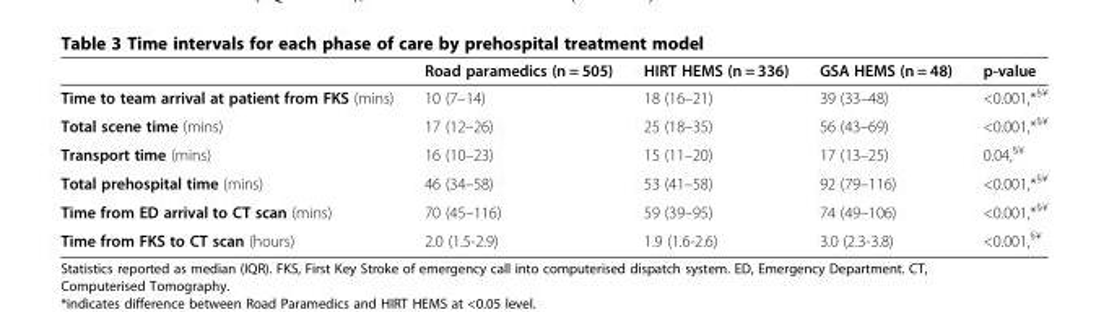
<table><thead><tr><td></td><td>Road paramedics (n = 505)</td><td>HIRT HEMS (n = 336)</td><td>GSA HEMS (n = 48)</td><td>p-value</td></tr></thead><tbody><tr><td>Time to team arrival at patient from FKS (mins)</td><td>10 (7–14)</td><td>18 (16–21)</td><td>39 (33–48)</td><td>&lt;0.001,*<sup>§¥</sup></td></tr><tr><td>Total scene time (mins)</td><td>17 (12–26)</td><td>25 (18–35)</td><td>56 (43–69)</td><td>&lt;0.001,*<sup>§¥</sup></td></tr><tr><td>Transport time (mins)</td><td>16 (10–23)</td><td>15 (11–20)</td><td>17 (13–25)</td><td>0.04,<sup>§¥</sup></td></tr><tr><td>Total prehospital time (mins)</td><td>46 (34–58)</td><td>53 (41–58)</td><td>92 (79–116)</td><td>&lt;0.001,*<sup>§¥</sup></td></tr><tr><td>Time from ED arrival to CT scan (mins)</td><td>70 (45–116)</td><td>59 (39–95)</td><td>74 (49–106)</td><td>&lt;0.001,*<sup>§¥</sup></td></tr><tr><td>Time from FKS to CT scan (hours)</td><td>2.0 (1.5-2.9)</td><td>1.9 (1.6-2.6)</td><td>3.0 (2.3-3.8)</td><td>&lt;0.001,<sup>§¥</sup></td></tr></tbody></table>